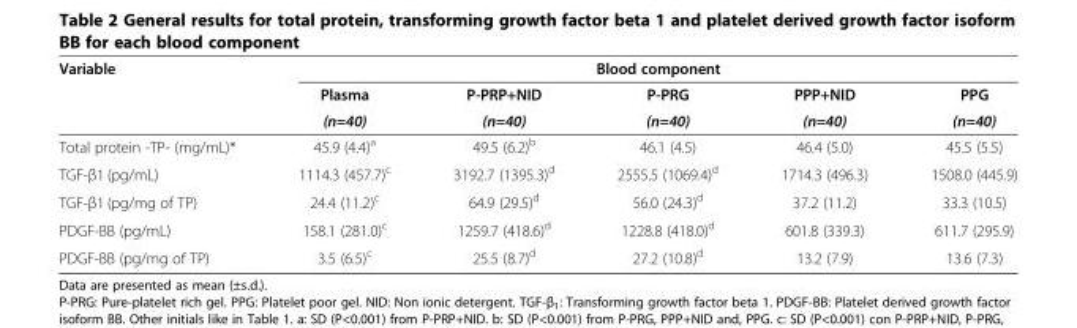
<table><thead><tr><td rowspan="3">Variable</td><td colspan="5">Blood component</td></tr><tr><td rowspan="2">Plasma (n=40)</td><td rowspan="2">P-PRP+NID (n=40)</td><td rowspan="2">P-PRG (n=40)</td><td rowspan="2">PPP+NID (n=40)</td><td rowspan="2">PPG (n=40)</td></tr><tr></tr></thead><tbody><tr><td>Total protein -TP- (mg/mL)*</td><td>45.9 (4.4)<sup>a</sup></td><td>49.5 (6.2)<sup>b</sup></td><td>46.1 (4.5)</td><td>46.4 (5.0)</td><td>45.5 (5.5)</td></tr><tr><td>TGF-β1 (pg/mL)</td><td>1114.3 (457.7)<sup>c</sup></td><td>3192.7 (1395.3)<sup>d</sup></td><td>2555.5 (1069.4)<sup>d</sup></td><td>1714.3 (496.3)</td><td>1508.0 (445.9)</td></tr><tr><td>TGF-β1 (pg/mg of TP)</td><td>24.4 (11.2)<sup>c</sup></td><td>64.9 (29.5)<sup>d</sup></td><td>56.0 (24.3)<sup>d</sup></td><td>37.2 (11.2)</td><td>33.3 (10.5)</td></tr><tr><td>PDGF-BB (pg/mL)</td><td>158.1 (281.0)<sup>c</sup></td><td>1259.7 (418.6)<sup>d</sup></td><td>1228.8 (418.0)<sup>d</sup></td><td>601.8 (339.3)</td><td>611.7 (295.9)</td></tr><tr><td>PDGF-BB (pg/mg of TP)</td><td>3.5 (6.5)<sup>c</sup></td><td>25.5 (8.7)<sup>d</sup></td><td>27.2 (10.8)<sup>d</sup></td><td>13.2 (7.9)</td><td>13.6 (7.3)</td></tr></tbody></table>